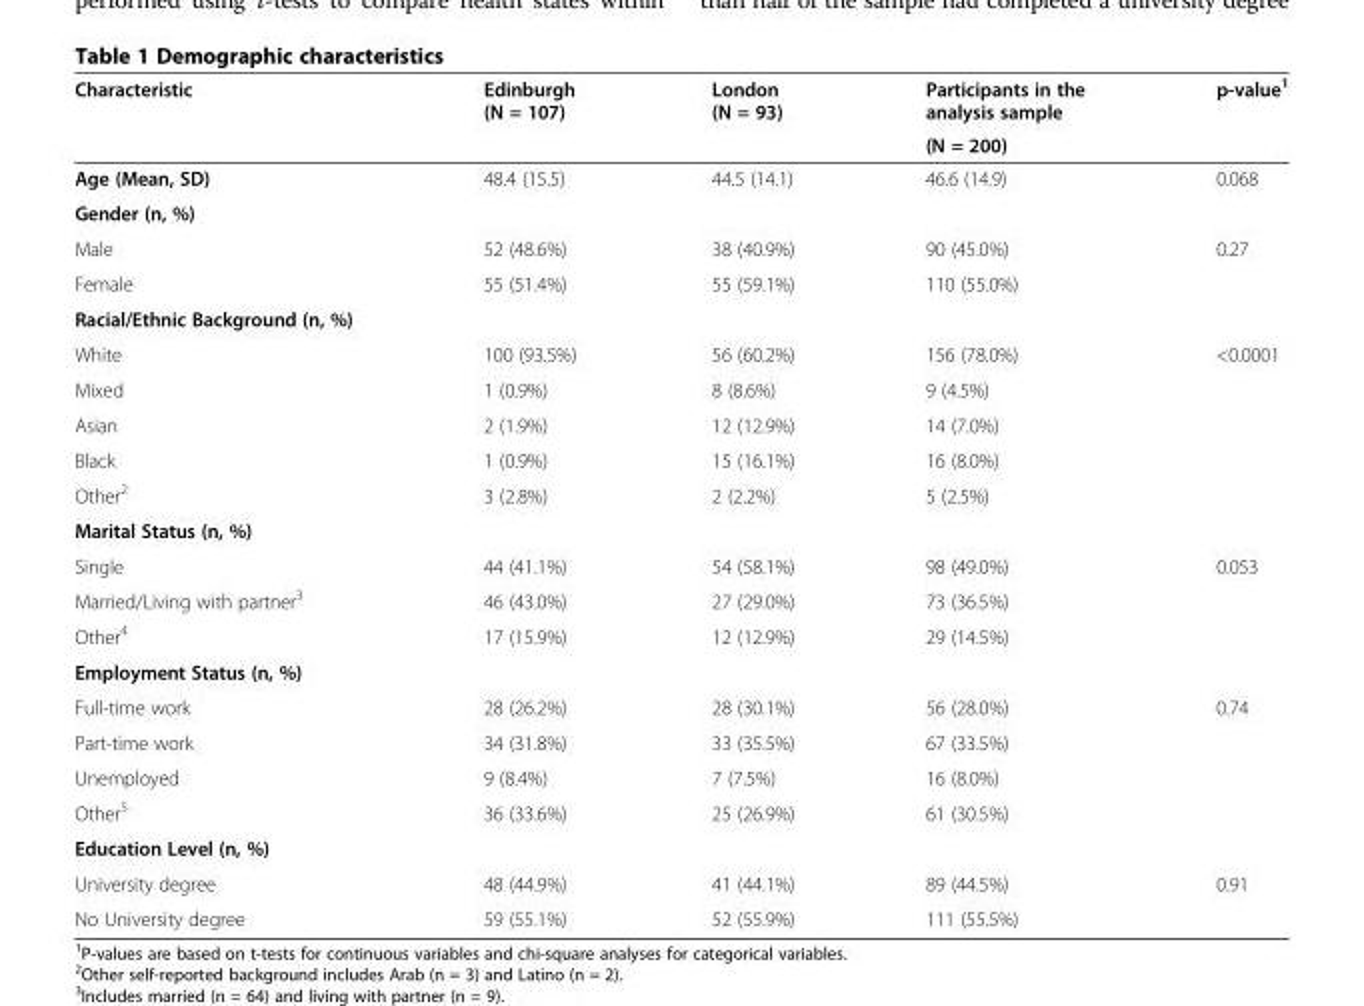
<table><thead><tr><td rowspan="2">Characteristic</td><td rowspan="2">Edinburgh (N = 107)</td><td rowspan="2">London (N = 93)</td><td rowspan="2">Participants in the analysis sample (N = 200)</td><td rowspan="2">p-value<sup>1</sup></td></tr><tr></tr></thead><tbody><tr><td>Age (Mean, SD)</td><td>48.4 (15.5)</td><td>44.5 (14.1)</td><td>46.6 (14.9)</td><td>0.068</td></tr><tr><td colspan="5">Gender (n, %)</td></tr><tr><td>Male</td><td>52 (48.6%)</td><td>38 (40.9%)</td><td>90 (45.0%)</td><td>0.27</td></tr><tr><td>Female</td><td>55 (51.4%)</td><td>55 (59.1%)</td><td>110 (55.0%)</td><td></td></tr><tr><td colspan="5">Racial/Ethnic Background (n, %)</td></tr><tr><td>White</td><td>100 (93.5%)</td><td>56 (60.2%)</td><td>156 (78.0%)</td><td>&lt;0.0001</td></tr><tr><td>Mixed</td><td>1 (0.9%)</td><td>8 (8.6%)</td><td>9 (4.5%)</td><td></td></tr><tr><td>Asian</td><td>2 (1.9%)</td><td>12 (12.9%)</td><td>14 (7.0%)</td><td></td></tr><tr><td>Black</td><td>1 (0.9%)</td><td>15 (16.1%)</td><td>16 (8.0%)</td><td></td></tr><tr><td>Other<sup>2</sup></td><td>3 (2.8%)</td><td>2 (2.2%)</td><td>5 (2.5%)</td><td></td></tr><tr><td colspan="5">Marital Status (n, %)</td></tr><tr><td>Single</td><td>44 (41.1%)</td><td>54 (58.1%)</td><td>98 (49.0%)</td><td>0.053</td></tr><tr><td>Married/Living with partner<sup>3</sup></td><td>46 (43.0%)</td><td>27 (29.0%)</td><td>73 (36.5%)</td><td></td></tr><tr><td>Other<sup>4</sup></td><td>17 (15.9%)</td><td>12 (12.9%)</td><td>29 (14.5%)</td><td></td></tr><tr><td colspan="5">Employment Status (n, %)</td></tr><tr><td>Full-time work</td><td>28 (26.2%)</td><td>28 (30.1%)</td><td>56 (28.0%)</td><td>0.74</td></tr><tr><td>Part-time work</td><td>34 (31.8%)</td><td>33 (35.5%)</td><td>67 (33.5%)</td><td></td></tr><tr><td>Unemployed</td><td>9 (8.4%)</td><td>7 (7.5%)</td><td>16 (8.0%)</td><td></td></tr><tr><td>Other<sup>5</sup></td><td>36 (33.6%)</td><td>25 (26.9%)</td><td>61 (30.5%)</td><td></td></tr><tr><td colspan="5">Education Level (n, %)</td></tr><tr><td>University degree</td><td>48 (44.9%)</td><td>41 (44.1%)</td><td>89 (44.5%)</td><td>0.91</td></tr><tr><td>No University degree</td><td>59 (55.1%)</td><td>52 (55.9%)</td><td>111 (55.5%)</td><td></td></tr></tbody></table>